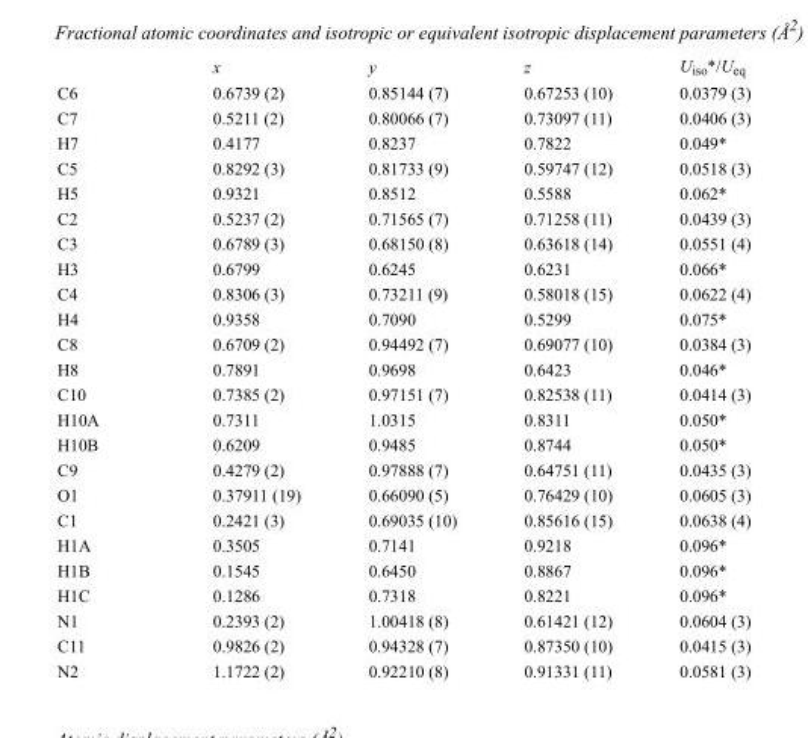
<table><thead><tr><td></td><td>x</td><td>y</td><td>z</td><td>U<sub>iso</sub>*/U<sub>eq</sub></td></tr></thead><tbody><tr><td>C6</td><td>0.6739 (2)</td><td>0.85144 (7)</td><td>0.67253 (10)</td><td>0.0379 (3)</td></tr><tr><td>C7</td><td>0.5211 (2)</td><td>0.80066 (7)</td><td>0.73097 (11)</td><td>0.0406 (3)</td></tr><tr><td>H7</td><td>0.4177</td><td>0.8237</td><td>0.7822</td><td>0.049*</td></tr><tr><td>C5</td><td>0.8292 (3)</td><td>0.81733 (9)</td><td>0.59747 (12)</td><td>0.0518 (3)</td></tr><tr><td>H5</td><td>0.9321</td><td>0.8512</td><td>0.5588</td><td>0.062*</td></tr><tr><td>C2</td><td>0.5237 (2)</td><td>0.71565 (7)</td><td>0.71258 (11)</td><td>0.0439 (3)</td></tr><tr><td>C3</td><td>0.6789 (3)</td><td>0.68150 (8)</td><td>0.63618 (14)</td><td>0.0551 (4)</td></tr><tr><td>H3</td><td>0.6799</td><td>0.6245</td><td>0.6231</td><td>0.066*</td></tr><tr><td>C4</td><td>0.8306 (3)</td><td>0.73211 (9)</td><td>0.58018 (15)</td><td>0.0622 (4)</td></tr><tr><td>H4</td><td>0.9358</td><td>0.7090</td><td>0.5299</td><td>0.075*</td></tr><tr><td>C8</td><td>0.6709 (2)</td><td>0.94492 (7)</td><td>0.69077 (10)</td><td>0.0384 (3)</td></tr><tr><td>H8</td><td>0.7891</td><td>0.9698</td><td>0.6423</td><td>0.046*</td></tr><tr><td>C10</td><td>0.7385 (2)</td><td>0.97151 (7)</td><td>0.82538 (11)</td><td>0.0414 (3)</td></tr><tr><td>H10A</td><td>0.7311</td><td>1.0315</td><td>0.8311</td><td>0.050*</td></tr><tr><td>H10B</td><td>0.6209</td><td>0.9485</td><td>0.8744</td><td>0.050*</td></tr><tr><td>C9</td><td>0.4279 (2)</td><td>0.97888 (7)</td><td>0.64751 (11)</td><td>0.0435 (3)</td></tr><tr><td>O1</td><td>0.37911 (19)</td><td>0.66090 (5)</td><td>0.76429 (10)</td><td>0.0605 (3)</td></tr><tr><td>C1</td><td>0.2421 (3)</td><td>0.69035 (10)</td><td>0.85616 (15)</td><td>0.0638 (4)</td></tr><tr><td>H1A</td><td>0.3505</td><td>0.7141</td><td>0.9218</td><td>0.096*</td></tr><tr><td>H1B</td><td>0.1545</td><td>0.6450</td><td>0.8867</td><td>0.096*</td></tr><tr><td>H1C</td><td>0.1286</td><td>0.7318</td><td>0.8221</td><td>0.096*</td></tr><tr><td>N1</td><td>0.2393 (2)</td><td>1.00418 (8)</td><td>0.61421 (12)</td><td>0.0604 (3)</td></tr><tr><td>C11</td><td>0.9826 (2)</td><td>0.94328 (7)</td><td>0.87350 (10)</td><td>0.0415 (3)</td></tr><tr><td>N2</td><td>1.1722 (2)</td><td>0.92210 (8)</td><td>0.91331 (11)</td><td>0.0581 (3)</td></tr></tbody></table>